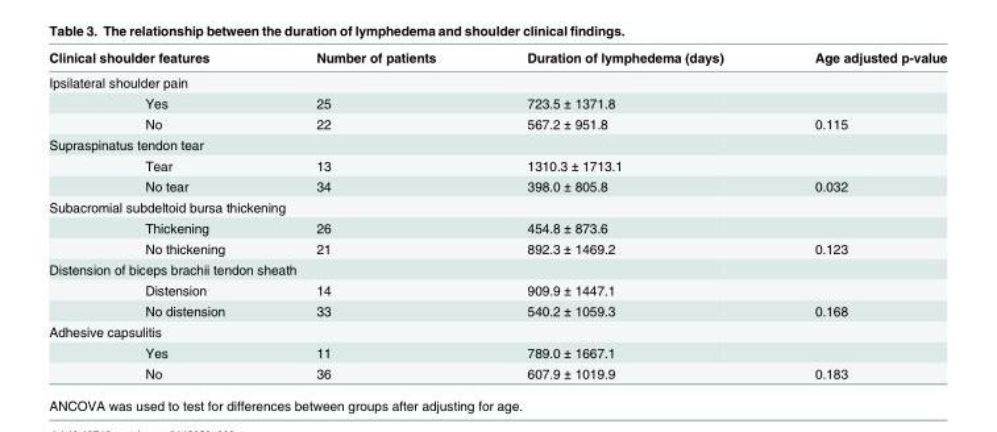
<table><thead><tr><td>Clinical shoulder features</td><td>Number of patients</td><td>Duration of lymphedema (days)</td><td>Age adjusted p-value</td></tr></thead><tbody><tr><td colspan="4">Ipsilateral shoulder pain</td></tr><tr><td>Yes</td><td>25</td><td>723.5 ± 1371.8</td><td></td></tr><tr><td>No</td><td>22</td><td>567.2 ± 951.8</td><td>0.115</td></tr><tr><td colspan="4">Supraspinatus tendon tear</td></tr><tr><td>Tear</td><td>13</td><td>1310.3 ± 1713.1</td><td></td></tr><tr><td>No tear</td><td>34</td><td>398.0 ± 805.8</td><td>0.032</td></tr><tr><td colspan="4">Subacromial subdeltoid bursa thickening</td></tr><tr><td>Thickening</td><td>26</td><td>454.8 ± 873.6</td><td></td></tr><tr><td>No thickening</td><td>21</td><td>892.3 ± 1469.2</td><td>0.123</td></tr><tr><td colspan="4">Distension of biceps brachii tendon sheath</td></tr><tr><td>Distension</td><td>14</td><td>909.9 ± 1447.1</td><td></td></tr><tr><td>No distension</td><td>33</td><td>540.2 ± 1059.3</td><td>0.168</td></tr><tr><td colspan="4">Adhesive capsulitis</td></tr><tr><td>Yes</td><td>11</td><td>789.0 ± 1667.1</td><td></td></tr><tr><td>No</td><td>36</td><td>607.9 ± 1019.9</td><td>0.183</td></tr></tbody></table>